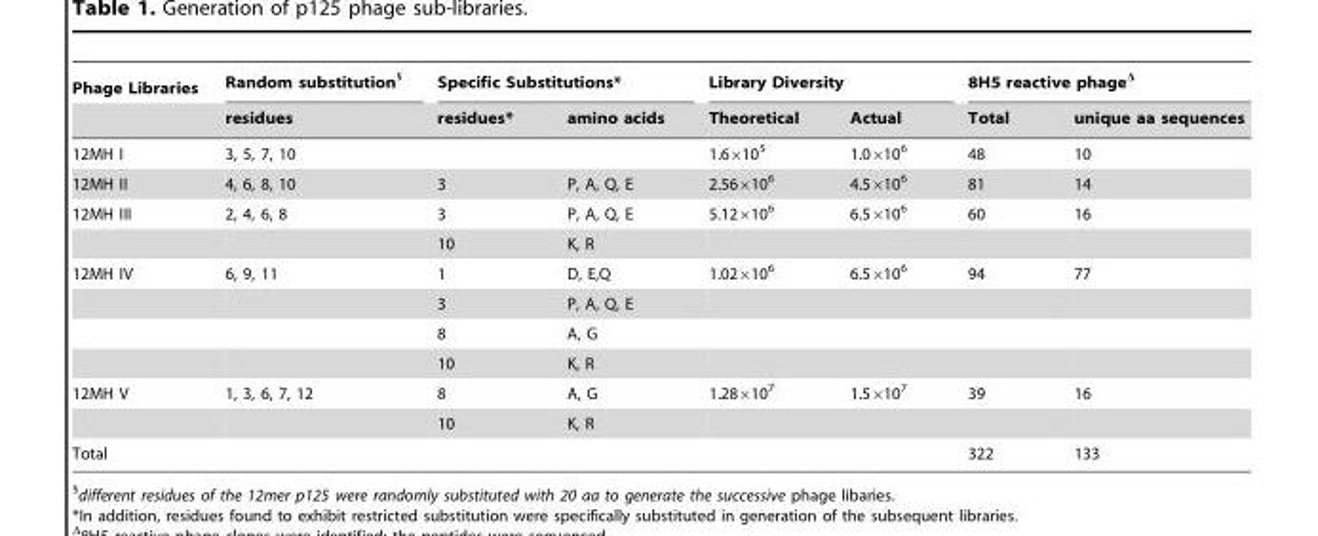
<table><thead><tr><td rowspan="2">Phage Libraries</td><td rowspan="2">Random substitution§ residues</td><td colspan="2">Specific Substitutions*</td><td colspan="2">Library Diversity</td><td colspan="2">8H5 reactive phageΔ</td></tr><tr><td>residues*</td><td>amino acids</td><td>Theoretical</td><td>Actual</td><td>Total</td><td>unique aa sequences</td></tr></thead><tbody><tr><td>12MH I</td><td>3, 5, 7, 10</td><td></td><td></td><td>1.6×10<sup>5</sup></td><td>1.0×10<sup>6</sup></td><td>48</td><td>10</td></tr><tr><td>12MH II</td><td>4, 6, 8, 10</td><td>3</td><td>P, A, Q, E</td><td>2.56×10<sup>6</sup></td><td>4.5×10<sup>6</sup></td><td>81</td><td>14</td></tr><tr><td rowspan="2">12MH III</td><td>2, 4, 6, 8</td><td>3</td><td>P, A, Q, E</td><td>5.12×10<sup>6</sup></td><td>6.5×10<sup>6</sup></td><td>60</td><td>16</td></tr><tr><td></td><td>10</td><td>K, R</td><td></td><td></td><td></td><td></td></tr><tr><td rowspan="4">12MH IV</td><td>6, 9, 11</td><td>1</td><td>D, E,Q</td><td>1.02×10<sup>6</sup></td><td>6.5×10<sup>6</sup></td><td>94</td><td>77</td></tr><tr><td></td><td>3</td><td>P, A, Q, E</td><td></td><td></td><td></td><td></td></tr><tr><td></td><td>8</td><td>A, G</td><td></td><td></td><td></td><td></td></tr><tr><td></td><td>10</td><td>K, R</td><td></td><td></td><td></td><td></td></tr><tr><td rowspan="2">12MH V</td><td>1, 3, 6, 7, 12</td><td>8</td><td>A, G</td><td>1.28×10<sup>7</sup></td><td>1.5×10<sup>7</sup></td><td>39</td><td>16</td></tr><tr><td></td><td>10</td><td>K, R</td><td></td><td></td><td></td><td></td></tr><tr><td>Total</td><td></td><td></td><td></td><td></td><td></td><td>322</td><td>133</td></tr></tbody></table>